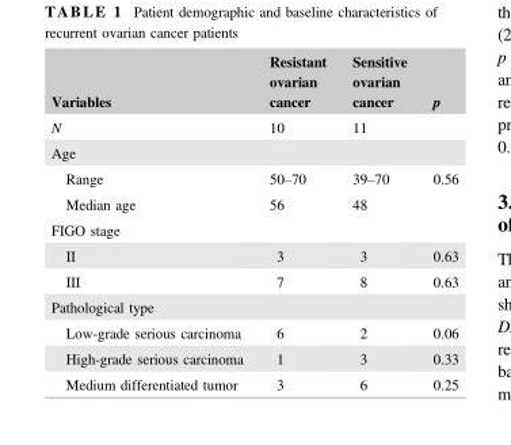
<table><thead><tr><td>Variables</td><td>Resistant ovarian cancer</td><td>Sensitive ovarian cancer</td><td>p</td></tr></thead><tbody><tr><td>N</td><td>10</td><td>11</td><td></td></tr><tr><td colspan="4">Age</td></tr><tr><td>Range</td><td>50–70</td><td>39–70</td><td rowspan="2">0.56</td></tr><tr><td>Median age</td><td>56</td><td>48</td></tr><tr><td colspan="4">FIGO stage</td></tr><tr><td>II</td><td>3</td><td>3</td><td>0.63</td></tr><tr><td>III</td><td>7</td><td>8</td><td>0.63</td></tr><tr><td colspan="4">Pathological type</td></tr><tr><td>Low-grade serious carcinoma</td><td>6</td><td>2</td><td>0.06</td></tr><tr><td>High-grade serious carcinoma</td><td>1</td><td>3</td><td>0.33</td></tr><tr><td>Medium differentiated tumor</td><td>3</td><td>6</td><td>0.25</td></tr></tbody></table>